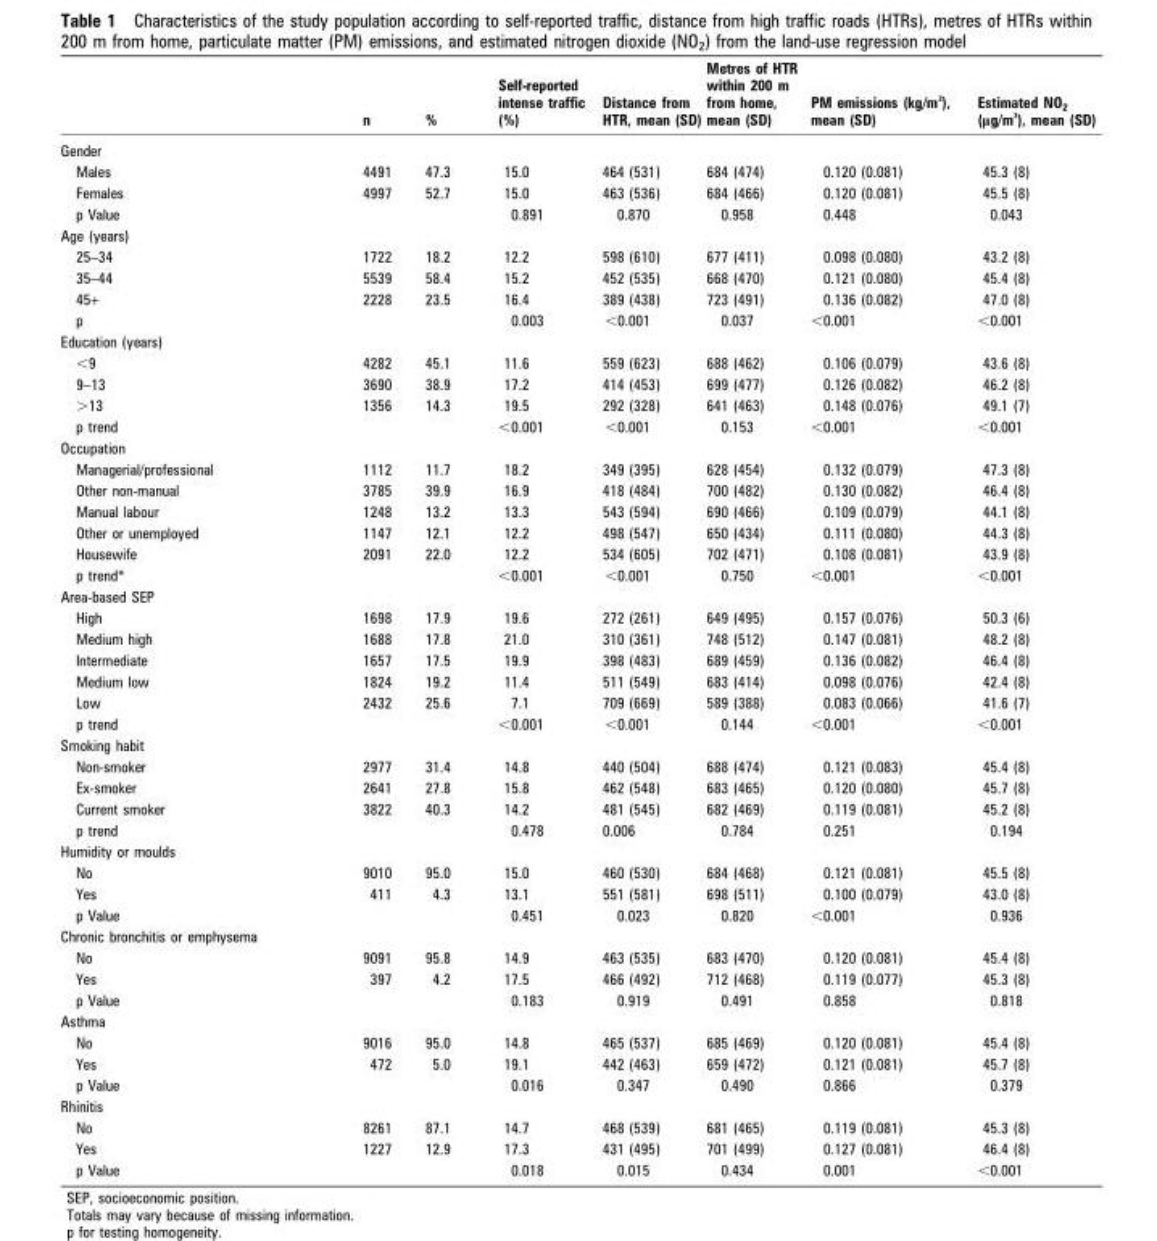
<table><thead><tr><td></td><td>n</td><td>%</td><td>Self-reported intense traffic (%)</td><td>Distance from HTR, mean (SD)</td><td>Metres of HTR within 200 m from home, mean (SD)</td><td>PM emissions (kg/m <sup>2</sup>), mean (SD)</td><td>Estimated NO<sub>2</sub> (μg/m <sup>3</sup>), mean (SD)</td></tr></thead><tbody><tr><td colspan="8">Gender</td></tr><tr><td>Males</td><td>4491</td><td>47.3</td><td>15.0</td><td>464 (531)</td><td>684 (474)</td><td>0.120 (0.081)</td><td>45.3 (8)</td></tr><tr><td>Females</td><td>4997</td><td>52.7</td><td>15.0</td><td>463 (536)</td><td>684 (466)</td><td>0.120 (0.081)</td><td>45.5 (8)</td></tr><tr><td>p Value</td><td></td><td></td><td>0.891</td><td>0.870</td><td>0.958</td><td>0.448</td><td>0.043</td></tr><tr><td colspan="8">Age (years)</td></tr><tr><td>25–34</td><td>1722</td><td>18.2</td><td>12.2</td><td>598 (610)</td><td>677 (411)</td><td>0.098 (0.080)</td><td>43.2 (8)</td></tr><tr><td>35–44</td><td>5539</td><td>58.4</td><td>15.2</td><td>452 (535)</td><td>668 (470)</td><td>0.121 (0.080)</td><td>45.4 (8)</td></tr><tr><td>45+</td><td>2228</td><td>23.5</td><td>16.4</td><td>389 (438)</td><td>723 (491)</td><td>0.136 (0.082)</td><td>47.0 (8)</td></tr><tr><td>p</td><td></td><td></td><td>0.003</td><td>&lt;0.001</td><td>0.037</td><td>&lt;0.001</td><td>&lt;0.001</td></tr><tr><td colspan="8">Education (years)</td></tr><tr><td>&lt;9</td><td>4282</td><td>45.1</td><td>11.6</td><td>559 (623)</td><td>688 (462)</td><td>0.106 (0.079)</td><td>43.6 (8)</td></tr><tr><td>9–13</td><td>3690</td><td>38.9</td><td>17.2</td><td>414 (453)</td><td>699 (477)</td><td>0.126 (0.082)</td><td>46.2 (8)</td></tr><tr><td>&gt;13</td><td>1356</td><td>14.3</td><td>19.5</td><td>292 (328)</td><td>641 (463)</td><td>0.148 (0.076)</td><td>49.1 (7)</td></tr><tr><td>p trend</td><td></td><td></td><td>&lt;0.001</td><td>&lt;0.001</td><td>0.153</td><td>&lt;0.001</td><td>&lt;0.001</td></tr><tr><td colspan="8">Occupation</td></tr><tr><td>Managerial/professional</td><td>1112</td><td>11.7</td><td>18.2</td><td>349 (395)</td><td>628 (454)</td><td>0.132 (0.079)</td><td>47.3 (8)</td></tr><tr><td>Other non-manual</td><td>3785</td><td>39.9</td><td>16.9</td><td>418 (484)</td><td>700 (482)</td><td>0.130 (0.082)</td><td>46.4 (8)</td></tr><tr><td>Manual labour</td><td>1248</td><td>13.2</td><td>13.3</td><td>543 (594)</td><td>690 (466)</td><td>0.109 (0.079)</td><td>44.1 (8)</td></tr><tr><td>Other or unemployed</td><td>1147</td><td>12.1</td><td>12.2</td><td>498 (547)</td><td>650 (434)</td><td>0.111 (0.080)</td><td>44.3 (8)</td></tr><tr><td>Housewife</td><td>2091</td><td>22.0</td><td>12.2</td><td>534 (605)</td><td>702 (471)</td><td>0.108 (0.081)</td><td>43.9 (8)</td></tr><tr><td>p trend*</td><td></td><td></td><td>&lt;0.001</td><td>&lt;0.001</td><td>0.750</td><td>&lt;0.001</td><td>&lt;0.001</td></tr><tr><td colspan="8">Area-based SEP</td></tr><tr><td>High</td><td>1698</td><td>17.9</td><td>19.6</td><td>272 (261)</td><td>649 (495)</td><td>0.157 (0.076)</td><td>50.3 (6)</td></tr><tr><td>Medium high</td><td>1688</td><td>17.8</td><td>21.0</td><td>310 (361)</td><td>748 (512)</td><td>0.147 (0.081)</td><td>48.2 (8)</td></tr><tr><td>Intermediate</td><td>1657</td><td>17.5</td><td>19.9</td><td>398 (483)</td><td>689 (459)</td><td>0.136 (0.082)</td><td>46.4 (8)</td></tr><tr><td>Medium low</td><td>1824</td><td>19.2</td><td>11.4</td><td>511 (549)</td><td>683 (414)</td><td>0.098 (0.076)</td><td>42.4 (8)</td></tr><tr><td>Low</td><td>2432</td><td>25.6</td><td>7.1</td><td>709 (669)</td><td>589 (388)</td><td>0.083 (0.066)</td><td>41.6 (7)</td></tr><tr><td>p trend</td><td></td><td></td><td>&lt;0.001</td><td>&lt;0.001</td><td>0.144</td><td>&lt;0.001</td><td>&lt;0.001</td></tr><tr><td colspan="8">Smoking habit</td></tr><tr><td>Non-smoker</td><td>2977</td><td>31.4</td><td>14.8</td><td>440 (504)</td><td>688 (474)</td><td>0.121 (0.083)</td><td>45.4 (8)</td></tr><tr><td>Ex-smoker</td><td>2641</td><td>27.8</td><td>15.8</td><td>462 (548)</td><td>683 (465)</td><td>0.120 (0.080)</td><td>45.7 (8)</td></tr><tr><td>Current smoker</td><td>3822</td><td>40.3</td><td>14.2</td><td>481 (545)</td><td>682 (469)</td><td>0.119 (0.081)</td><td>45.2 (8)</td></tr><tr><td>p trend</td><td></td><td></td><td>0.478</td><td>0.006</td><td>0.784</td><td>0.251</td><td>0.194</td></tr><tr><td colspan="8">Humidity or moulds</td></tr><tr><td>No</td><td>9010</td><td>95.0</td><td>15.0</td><td>460 (530)</td><td>684 (468)</td><td>0.121 (0.081)</td><td>45.5 (8)</td></tr><tr><td>Yes</td><td>411</td><td>4.3</td><td>13.1</td><td>551 (581)</td><td>698 (511)</td><td>0.100 (0.079)</td><td>43.0 (8)</td></tr><tr><td>p Value</td><td></td><td></td><td>0.451</td><td>0.023</td><td>0.820</td><td>&lt;0.001</td><td>0.936</td></tr><tr><td colspan="8">Chronic bronchitis or emphysema</td></tr><tr><td>No</td><td>9091</td><td>95.8</td><td>14.9</td><td>463 (535)</td><td>683 (470)</td><td>0.120 (0.081)</td><td>45.4 (8)</td></tr><tr><td>Yes</td><td>397</td><td>4.2</td><td>17.5</td><td>466 (492)</td><td>712 (468)</td><td>0.119 (0.077)</td><td>45.3 (8)</td></tr><tr><td>p Value</td><td></td><td></td><td>0.183</td><td>0.919</td><td>0.491</td><td>0.858</td><td>0.818</td></tr><tr><td colspan="8">Asthma</td></tr><tr><td>No</td><td>9016</td><td>95.0</td><td>14.8</td><td>465 (537)</td><td>685 (469)</td><td>0.120 (0.081)</td><td>45.4 (8)</td></tr><tr><td>Yes</td><td>472</td><td>5.0</td><td>19.1</td><td>442 (463)</td><td>659 (472)</td><td>0.121 (0.081)</td><td>45.7 (8)</td></tr><tr><td>p Value</td><td></td><td></td><td>0.016</td><td>0.347</td><td>0.490</td><td>0.866</td><td>0.379</td></tr><tr><td colspan="8">Rhinitis</td></tr><tr><td>No</td><td>8261</td><td>87.1</td><td>14.7</td><td>468 (539)</td><td>681 (465)</td><td>0.119 (0.081)</td><td>45.3 (8)</td></tr><tr><td>Yes</td><td>1227</td><td>12.9</td><td>17.3</td><td>431 (495)</td><td>701 (499)</td><td>0.127 (0.081)</td><td>46.4 (8)</td></tr><tr><td>p Value</td><td></td><td></td><td>0.018</td><td>0.015</td><td>0.434</td><td>0.001</td><td>&lt;0.001</td></tr></tbody></table>